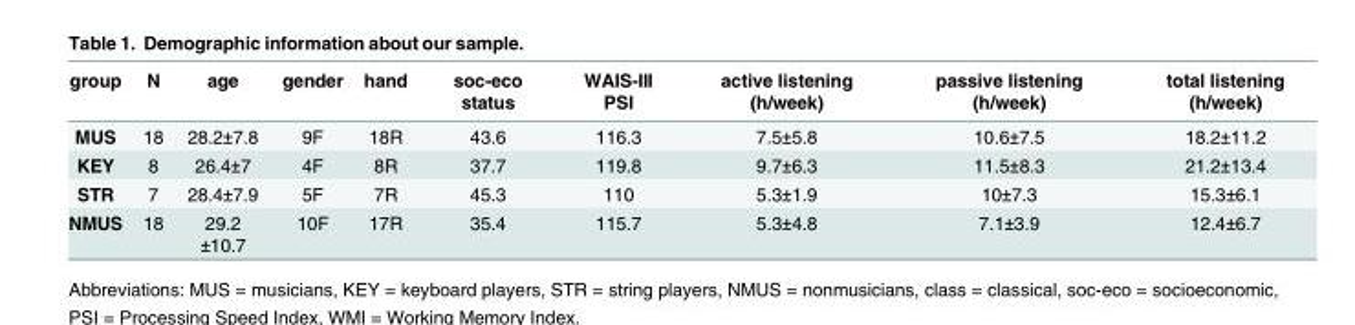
<table><thead><tr><td>group</td><td>N</td><td>age</td><td>gender</td><td>hand</td><td>soc-eco status</td><td>WAIS-III PSI</td><td>active listening (h/week)</td><td>passive listening (h/week)</td><td>total listening (h/week)</td></tr></thead><tbody><tr><td>MUS</td><td>18</td><td>28.2±7.8</td><td>9F</td><td>18R</td><td>43.6</td><td>116.3</td><td>7.5±5.8</td><td>10.6±7.5</td><td>18.2±11.2</td></tr><tr><td>KEY</td><td>8</td><td>26.4±7</td><td>4F</td><td>8R</td><td>37.7</td><td>119.8</td><td>9.7±6.3</td><td>11.5±8.3</td><td>21.2±13.4</td></tr><tr><td>STR</td><td>7</td><td>28.4±7.9</td><td>5F</td><td>7R</td><td>45.3</td><td>110</td><td>5.3±1.9</td><td>10±7.3</td><td>15.3±6.1</td></tr><tr><td>NMUS</td><td>18</td><td>29.2 ±10.7</td><td>10F</td><td>17R</td><td>35.4</td><td>115.7</td><td>5.3±4.8</td><td>7.1±3.9</td><td>12.4±6.7</td></tr></tbody></table>